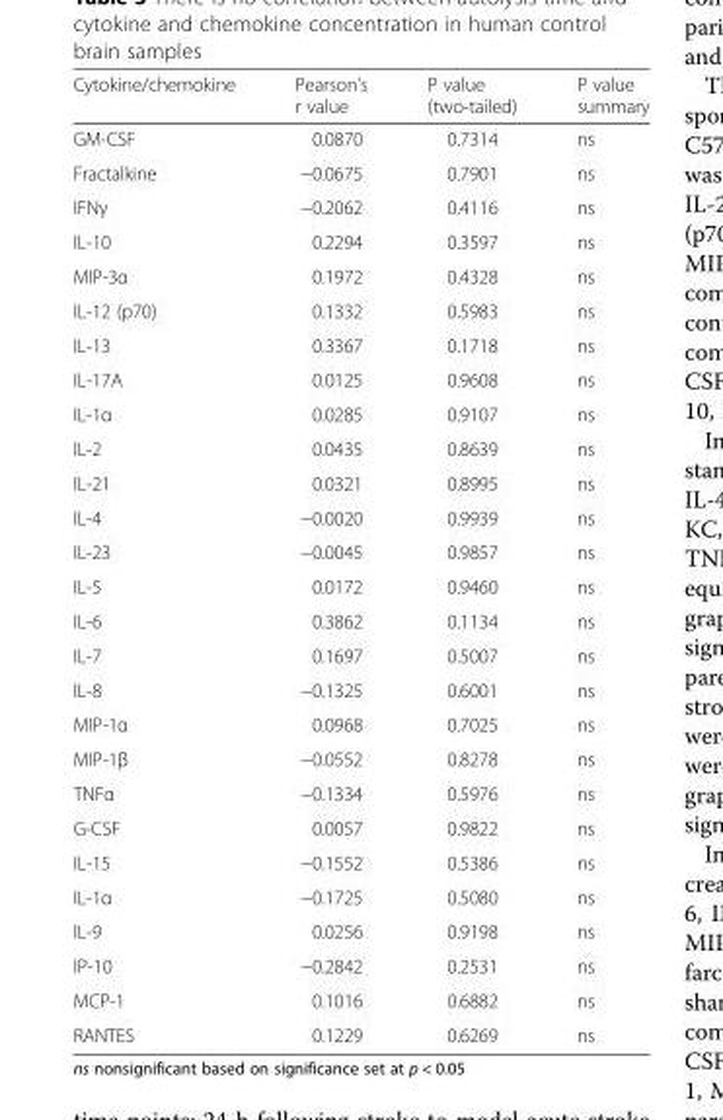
<table><thead><tr><td>Cytokine/chemokine</td><td>Pearson&#x27;s r value</td><td>P value (two-tailed)</td><td>P value summary</td></tr></thead><tbody><tr><td>GM-CSF</td><td>0.0870</td><td>0.7314</td><td>ns</td></tr><tr><td>Fractalkine</td><td>−0.0675</td><td>0.7901</td><td>ns</td></tr><tr><td>IFNγ</td><td>−0.2062</td><td>0.4116</td><td>ns</td></tr><tr><td>IL-10</td><td>0.2294</td><td>0.3597</td><td>ns</td></tr><tr><td>MIP-3α</td><td>0.1972</td><td>0.4328</td><td>ns</td></tr><tr><td>IL-12 (p70)</td><td>0.1332</td><td>0.5983</td><td>ns</td></tr><tr><td>IL-13</td><td>0.3367</td><td>0.1718</td><td>ns</td></tr><tr><td>IL-17A</td><td>0.0125</td><td>0.9608</td><td>ns</td></tr><tr><td>IL-1α</td><td>0.0285</td><td>0.9107</td><td>ns</td></tr><tr><td>IL-2</td><td>0.0435</td><td>0.8639</td><td>ns</td></tr><tr><td>IL-21</td><td>0.0321</td><td>0.8995</td><td>ns</td></tr><tr><td>IL-4</td><td>−0.0020</td><td>0.9939</td><td>ns</td></tr><tr><td>IL-23</td><td>−0.0045</td><td>0.9857</td><td>ns</td></tr><tr><td>IL-5</td><td>0.0172</td><td>0.9460</td><td>ns</td></tr><tr><td>IL-6</td><td>0.3862</td><td>0.1134</td><td>ns</td></tr><tr><td>IL-7</td><td>0.1697</td><td>0.5007</td><td>ns</td></tr><tr><td>IL-8</td><td>−0.1325</td><td>0.6001</td><td>ns</td></tr><tr><td>MIP-1α</td><td>0.0968</td><td>0.7025</td><td>ns</td></tr><tr><td>MIP-1β</td><td>−0.0552</td><td>0.8278</td><td>ns</td></tr><tr><td>TNFα</td><td>−0.1334</td><td>0.5976</td><td>ns</td></tr><tr><td>G-CSF</td><td>0.0057</td><td>0.9822</td><td>ns</td></tr><tr><td>IL-15</td><td>−0.1552</td><td>0.5386</td><td>ns</td></tr><tr><td>IL-1α</td><td>−0.1725</td><td>0.5080</td><td>ns</td></tr><tr><td>IL-9</td><td>0.0256</td><td>0.9198</td><td>ns</td></tr><tr><td>IP-10</td><td>−0.2842</td><td>0.2531</td><td>ns</td></tr><tr><td>MCP-1</td><td>0.1016</td><td>0.6882</td><td>ns</td></tr><tr><td>RANTES</td><td>0.1229</td><td>0.6269</td><td>ns</td></tr></tbody></table>